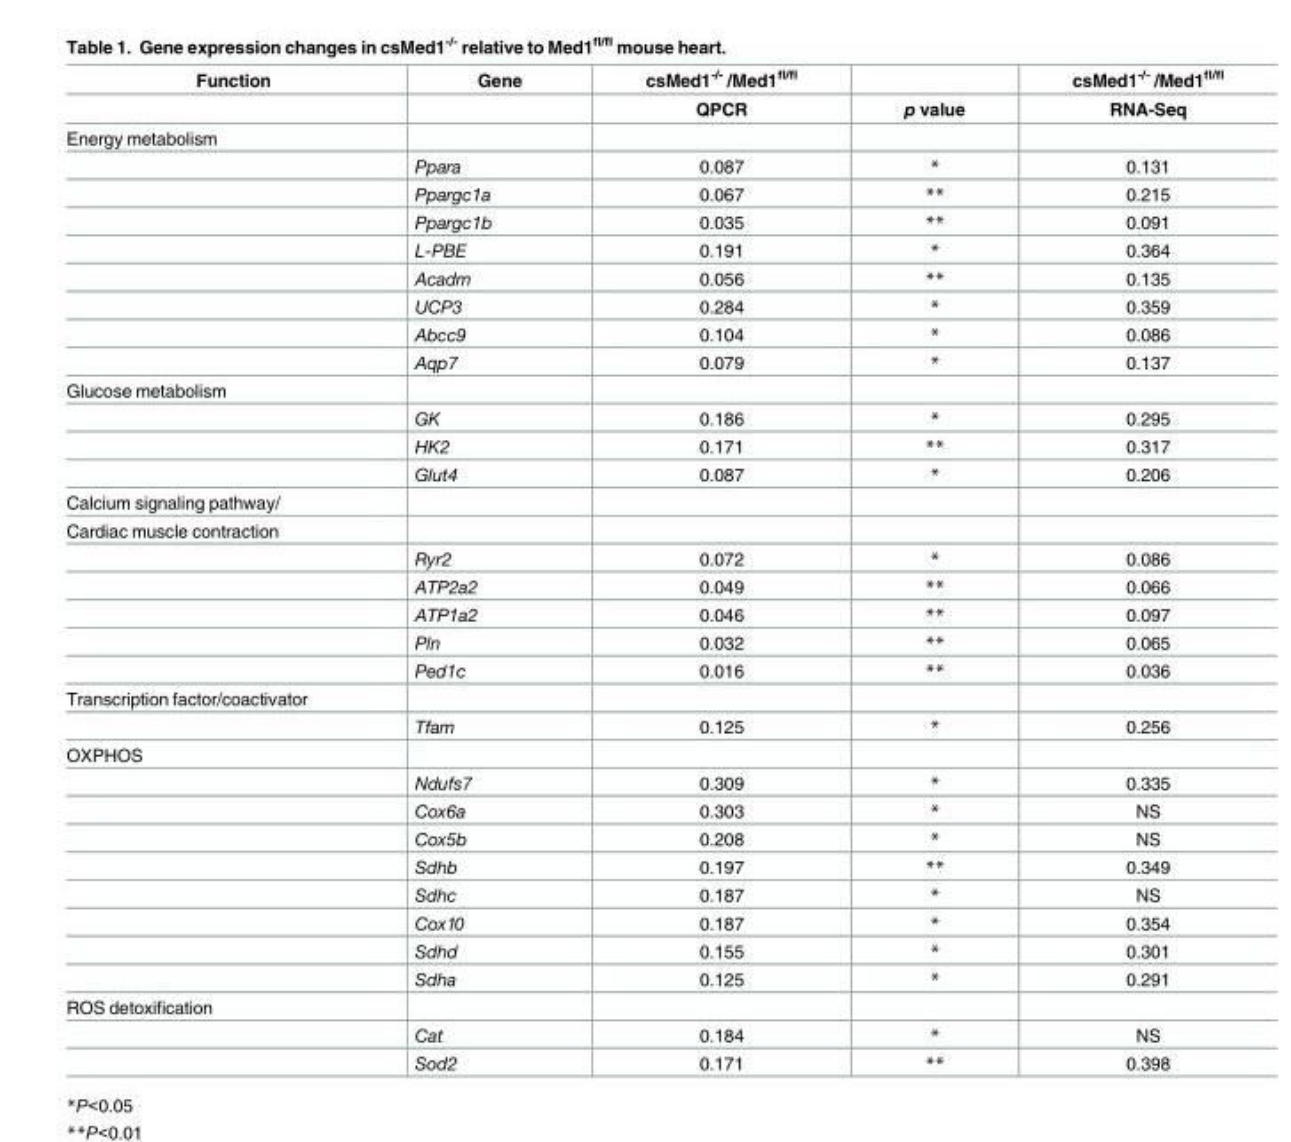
<table><thead><tr><td rowspan="2">Function</td><td rowspan="2">Gene</td><td rowspan="2">csMed1<sup>-/-</sup> /Med1<sup>fl/fl</sup> QPCR</td><td rowspan="2">p value</td><td rowspan="2">csMed1<sup>-/-</sup> /Med1<sup>fl/fl</sup> RNA-Seq</td></tr><tr></tr></thead><tbody><tr><td colspan="5">Energy metabolism</td></tr><tr><td></td><td>Ppara</td><td>0.087</td><td>*</td><td>0.131</td></tr><tr><td></td><td>Ppargc1a</td><td>0.067</td><td>**</td><td>0.215</td></tr><tr><td></td><td>Ppargc1b</td><td>0.035</td><td>**</td><td>0.091</td></tr><tr><td></td><td>L-PBE</td><td>0.191</td><td>*</td><td>0.364</td></tr><tr><td></td><td>Acadm</td><td>0.056</td><td>**</td><td>0.135</td></tr><tr><td></td><td>UCP3</td><td>0.284</td><td>*</td><td>0.359</td></tr><tr><td></td><td>Abcc9</td><td>0.104</td><td>*</td><td>0.086</td></tr><tr><td></td><td>Aqp7</td><td>0.079</td><td>*</td><td>0.137</td></tr><tr><td colspan="5">Glucose metabolism</td></tr><tr><td></td><td>GK</td><td>0.186</td><td>*</td><td>0.295</td></tr><tr><td></td><td>HK2</td><td>0.171</td><td>**</td><td>0.317</td></tr><tr><td></td><td>Glut4</td><td>0.087</td><td>*</td><td>0.206</td></tr><tr><td colspan="5">Calcium signaling pathway/</td></tr><tr><td colspan="5">Cardiac muscle contraction</td></tr><tr><td></td><td>Ryr2</td><td>0.072</td><td>*</td><td>0.086</td></tr><tr><td></td><td>ATP2a2</td><td>0.049</td><td>**</td><td>0.066</td></tr><tr><td></td><td>ATP1a2</td><td>0.046</td><td>**</td><td>0.097</td></tr><tr><td></td><td>Pln</td><td>0.032</td><td>**</td><td>0.065</td></tr><tr><td></td><td>Ped1c</td><td>0.016</td><td>**</td><td>0.036</td></tr><tr><td colspan="5">Transcription factor/coactivator</td></tr><tr><td></td><td>Tfam</td><td>0.125</td><td>*</td><td>0.256</td></tr><tr><td colspan="5">OXPHOS</td></tr><tr><td></td><td>Ndufs7</td><td>0.309</td><td>*</td><td>0.335</td></tr><tr><td></td><td>Cox6a</td><td>0.303</td><td>*</td><td>NS</td></tr><tr><td></td><td>Cox5b</td><td>0.208</td><td>*</td><td>NS</td></tr><tr><td></td><td>Sdhb</td><td>0.197</td><td>**</td><td>0.349</td></tr><tr><td></td><td>Sdhc</td><td>0.187</td><td>*</td><td>NS</td></tr><tr><td></td><td>Cox10</td><td>0.187</td><td>*</td><td>0.354</td></tr><tr><td></td><td>Sdhd</td><td>0.155</td><td>*</td><td>0.301</td></tr><tr><td></td><td>Sdha</td><td>0.125</td><td>*</td><td>0.291</td></tr><tr><td colspan="5">ROS detoxification</td></tr><tr><td></td><td>Cat</td><td>0.184</td><td>*</td><td>NS</td></tr><tr><td></td><td>Sod2</td><td>0.171</td><td>**</td><td>0.398</td></tr></tbody></table>